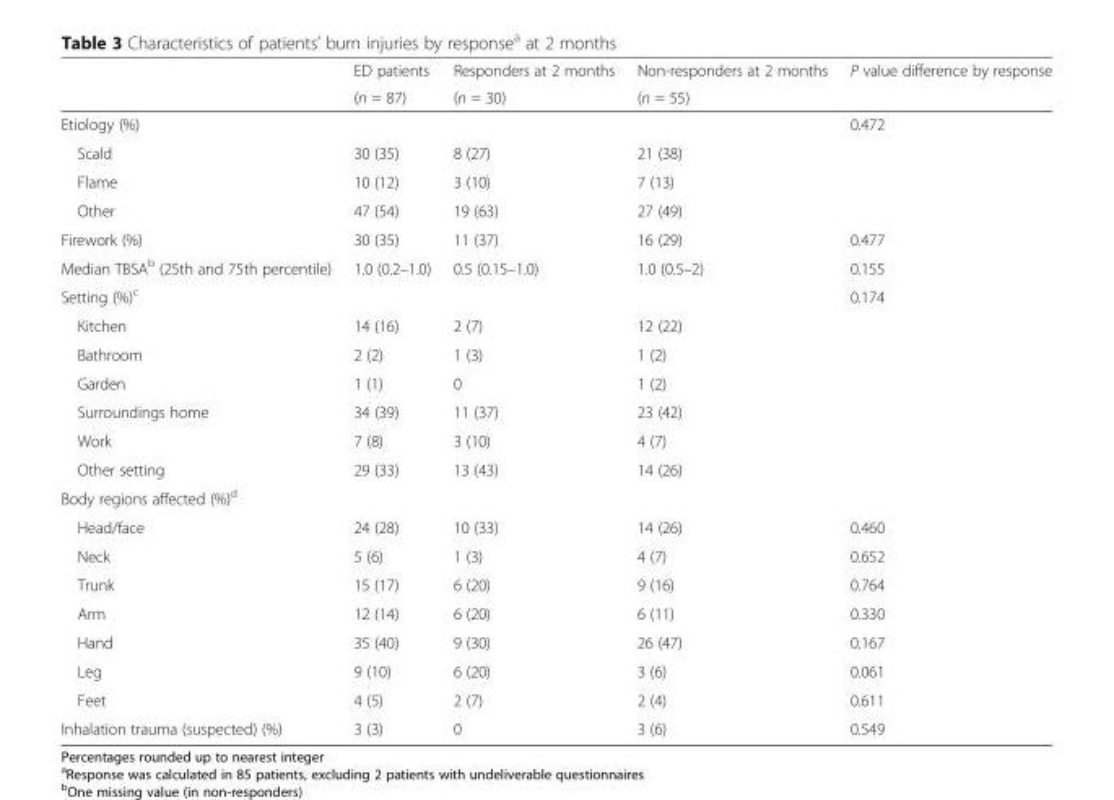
<table><thead><tr><td rowspan="2"></td><td rowspan="2">ED patients (n = 87)</td><td rowspan="2">Responders at 2 months (n = 30)</td><td rowspan="2">Non-responders at 2 months (n = 55)</td><td rowspan="2">P value difference by response</td></tr><tr></tr></thead><tbody><tr><td colspan="4">Etiology (%)</td><td>0.472</td></tr><tr><td>Scald</td><td>30 (35)</td><td>8 (27)</td><td>21 (38)</td><td></td></tr><tr><td>Flame</td><td>10 (12)</td><td>3 (10)</td><td>7 (13)</td><td></td></tr><tr><td>Other</td><td>47 (54)</td><td>19 (63)</td><td>27 (49)</td><td></td></tr><tr><td>Firework (%)</td><td>30 (35)</td><td>11 (37)</td><td>16 (29)</td><td>0.477</td></tr><tr><td>Median TBSA<sup>b</sup> (25th and 75th percentile)</td><td>1.0 (0.2–1.0)</td><td>0.5 (0.15–1.0)</td><td>1.0 (0.5–2)</td><td>0.155</td></tr><tr><td colspan="4">Setting (%)<sup>c</sup></td><td>0.174</td></tr><tr><td>Kitchen</td><td>14 (16)</td><td>2 (7)</td><td>12 (22)</td><td></td></tr><tr><td>Bathroom</td><td>2 (2)</td><td>1 (3)</td><td>1 (2)</td><td></td></tr><tr><td>Garden</td><td>1 (1)</td><td>0</td><td>1 (2)</td><td></td></tr><tr><td>Surroundings home</td><td>34 (39)</td><td>11 (37)</td><td>23 (42)</td><td></td></tr><tr><td>Work</td><td>7 (8)</td><td>3 (10)</td><td>4 (7)</td><td></td></tr><tr><td>Other setting</td><td>29 (33)</td><td>13 (43)</td><td>14 (26)</td><td></td></tr><tr><td colspan="5">Body regions affected (%)<sup>d</sup></td></tr><tr><td>Head/face</td><td>24 (28)</td><td>10 (33)</td><td>14 (26)</td><td>0.460</td></tr><tr><td>Neck</td><td>5 (6)</td><td>1 (3)</td><td>4 (7)</td><td>0.652</td></tr><tr><td>Trunk</td><td>15 (17)</td><td>6 (20)</td><td>9 (16)</td><td>0.764</td></tr><tr><td>Arm</td><td>12 (14)</td><td>6 (20)</td><td>6 (11)</td><td>0.330</td></tr><tr><td>Hand</td><td>35 (40)</td><td>9 (30)</td><td>26 (47)</td><td>0.167</td></tr><tr><td>Leg</td><td>9 (10)</td><td>6 (20)</td><td>3 (6)</td><td>0.061</td></tr><tr><td>Feet</td><td>4 (5)</td><td>2 (7)</td><td>2 (4)</td><td>0.611</td></tr><tr><td>Inhalation trauma (suspected) (%)</td><td>3 (3)</td><td>0</td><td>3 (6)</td><td>0.549</td></tr></tbody></table>